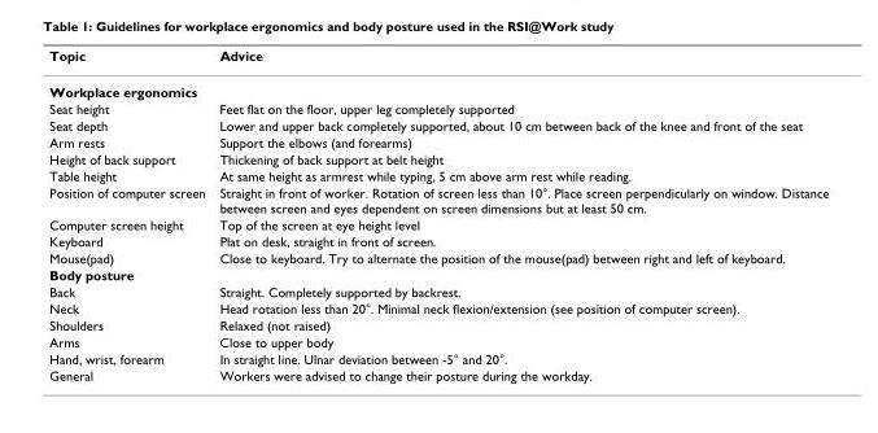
<table><thead><tr><td>Topic</td><td>Advice</td></tr></thead><tbody><tr><td colspan="2">Workplace ergonomics</td></tr><tr><td>Seat height</td><td>Feet flat on the floor, upper leg completely supported</td></tr><tr><td>Seat depth</td><td>Lower and upper back completely supported, about 10 cm between back of the knee and front of the seat</td></tr><tr><td>Arm rests</td><td>Support the elbows (and forearms)</td></tr><tr><td>Height of back support</td><td>Thickening of back support at belt height</td></tr><tr><td>Table height</td><td>At same height as armrest while typing, 5 cm above arm rest while reading.</td></tr><tr><td>Position of computer screen</td><td>Straight in front of worker. Rotation of screen less than 10°. Place screen perpendicularly on window. Distance between screen and eyes dependent on screen dimensions but at least 50 cm.</td></tr><tr><td>Computer screen height</td><td>Top of the screen at eye height level</td></tr><tr><td>Keyboard</td><td>Plat on desk, straight in front of screen.</td></tr><tr><td>Mouse(pad)</td><td>Close to keyboard. Try to alternate the position of the mouse(pad) between right and left of keyboard.</td></tr><tr><td colspan="2">Body posture</td></tr><tr><td>Back</td><td>Straight. Completely supported by backrest.</td></tr><tr><td>Neck</td><td>Head rotation less than 20°. Minimal neck flexion/extension (see position of computer screen).</td></tr><tr><td>Shoulders</td><td>Relaxed (not raised)</td></tr><tr><td>Arms</td><td>Close to upper body</td></tr><tr><td>Hand, wrist, forearm</td><td>In straight line. Ulnar deviation between -5° and 20°.</td></tr><tr><td>General</td><td>Workers were advised to change their posture during the workday.</td></tr></tbody></table>